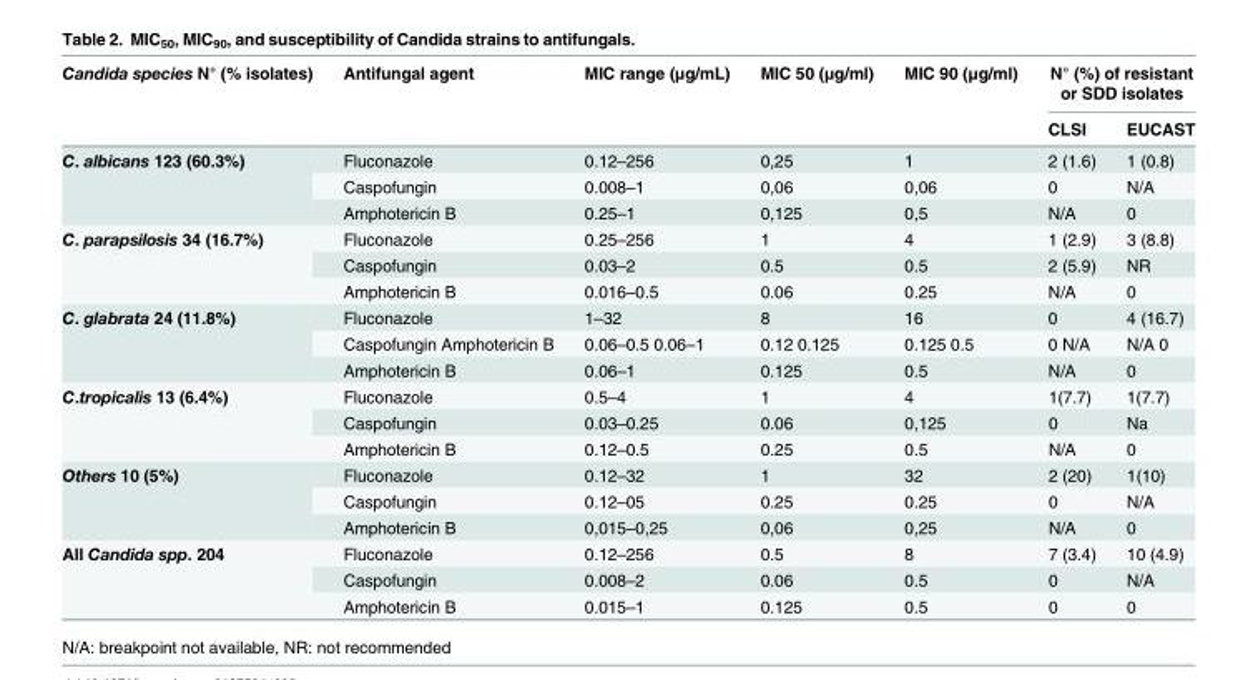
<table><thead><tr><td rowspan="2">Candida species N° (% isolates)</td><td rowspan="2">Antifungal agent</td><td rowspan="2">MIC range (μg/mL)</td><td rowspan="2">MIC 50 (μg/ml)</td><td rowspan="2">MIC 90 (μg/ml)</td><td colspan="2">N° (%) of resistant or SDD isolates</td></tr><tr><td>CLSI</td><td>EUCAST</td></tr></thead><tbody><tr><td rowspan="3">C. albicans 123 (60.3%)</td><td>Fluconazole</td><td>0.12–256</td><td>0,25</td><td>1</td><td>2 (1.6)</td><td>1 (0.8)</td></tr><tr><td>Caspofungin</td><td>0.008–1</td><td>0,06</td><td>0,06</td><td>0</td><td>N/A</td></tr><tr><td>Amphotericin B</td><td>0.25–1</td><td>0,125</td><td>0,5</td><td>N/A</td><td>0</td></tr><tr><td rowspan="3">C. parapsilosis 34 (16.7%)</td><td>Fluconazole</td><td>0.25–256</td><td>1</td><td>4</td><td>1 (2.9)</td><td>3 (8.8)</td></tr><tr><td>Caspofungin</td><td>0.03–2</td><td>0.5</td><td>0.5</td><td>2 (5.9)</td><td>NR</td></tr><tr><td>Amphotericin B</td><td>0.016–0.5</td><td>0.06</td><td>0.25</td><td>N/A</td><td>0</td></tr><tr><td rowspan="3">C. glabrata 24 (11.8%)</td><td>Fluconazole</td><td>1–32</td><td>8</td><td>16</td><td>0</td><td>4 (16.7)</td></tr><tr><td>Caspofungin Amphotericin B</td><td>0.06–0.5 0.06–1</td><td>0.12 0.125</td><td>0.125 0.5</td><td>0 N/A</td><td>N/A 0</td></tr><tr><td>Amphotericin B</td><td>0.06–1</td><td>0.125</td><td>0.5</td><td>N/A</td><td>0</td></tr><tr><td rowspan="3">C.tropicalis 13 (6.4%)</td><td>Fluconazole</td><td>0.5–4</td><td>1</td><td>4</td><td>1(7.7)</td><td>1(7.7)</td></tr><tr><td>Caspofungin</td><td>0.03–0.25</td><td>0.06</td><td>0,125</td><td>0</td><td>Na</td></tr><tr><td>Amphotericin B</td><td>0.12–0.5</td><td>0.25</td><td>0.5</td><td>N/A</td><td>0</td></tr><tr><td rowspan="3">Others 10 (5%)</td><td>Fluconazole</td><td>0.12–32</td><td>1</td><td>32</td><td>2 (20)</td><td>1(10)</td></tr><tr><td>Caspofungin</td><td>0.12–05</td><td>0.25</td><td>0.25</td><td>0</td><td>N/A</td></tr><tr><td>Amphotericin B</td><td>0,015–0,25</td><td>0,06</td><td>0,25</td><td>N/A</td><td>0</td></tr><tr><td rowspan="3">All Candida spp. 204</td><td>Fluconazole</td><td>0.12–256</td><td>0.5</td><td>8</td><td>7 (3.4)</td><td>10 (4.9)</td></tr><tr><td>Caspofungin</td><td>0.008–2</td><td>0.06</td><td>0.5</td><td>0</td><td>N/A</td></tr><tr><td>Amphotericin B</td><td>0.015–1</td><td>0.125</td><td>0.5</td><td>0</td><td>0</td></tr></tbody></table>